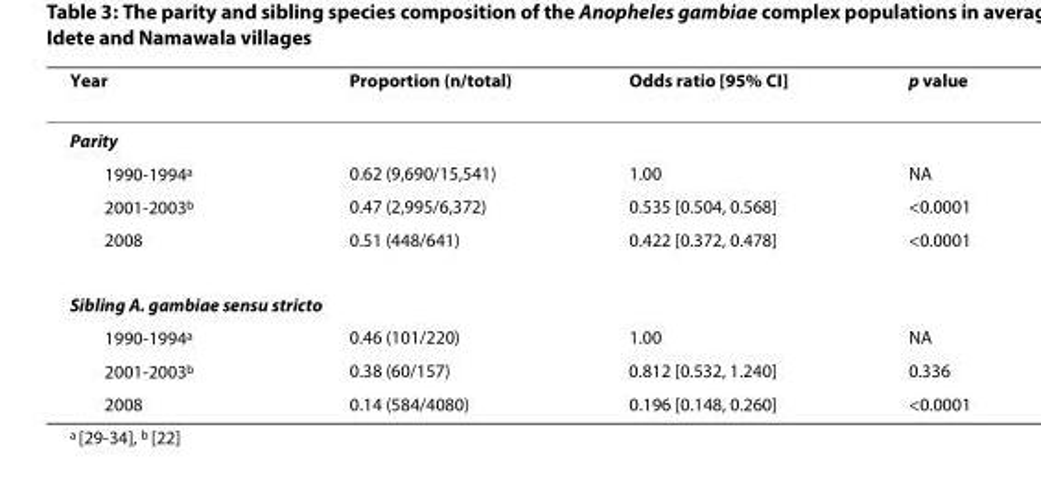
<table><thead><tr><td>Year</td><td>Proportion (n/total)</td><td>Odds ratio [95% CI]</td><td>p value</td></tr></thead><tbody><tr><td colspan="4">Parity</td></tr><tr><td>1990-1994<sup>a</sup></td><td>0.62 (9,690/15,541)</td><td>1.00</td><td>NA</td></tr><tr><td>2001-2003<sup>b</sup></td><td>0.47 (2,995/6,372)</td><td>0.535 [0.504, 0.568]</td><td>&lt;0.0001</td></tr><tr><td>2008</td><td>0.51 (448/641)</td><td>0.422 [0.372, 0.478]</td><td>&lt;0.0001</td></tr><tr><td colspan="4">Sibling A. gambiae sensu stricto</td></tr><tr><td>1990-1994<sup>a</sup></td><td>0.46 (101/220)</td><td>1.00</td><td>NA</td></tr><tr><td>2001-2003<sup>b</sup></td><td>0.38 (60/157)</td><td>0.812 [0.532, 1.240]</td><td>0.336</td></tr><tr><td>2008</td><td>0.14 (584/4080)</td><td>0.196 [0.148, 0.260]</td><td>&lt;0.0001</td></tr></tbody></table>